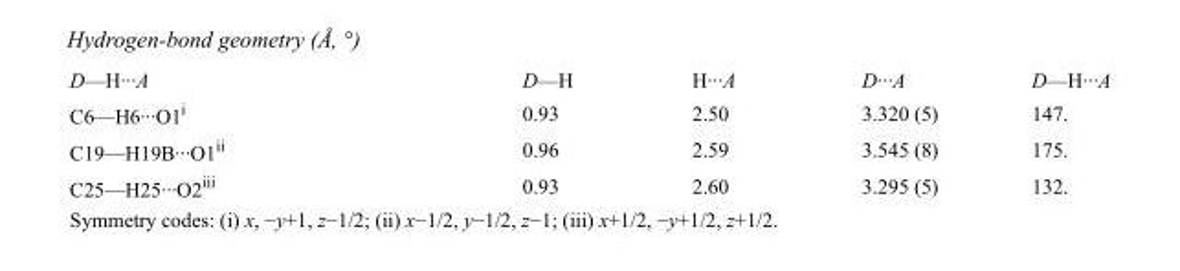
<table><tbody><tr><td>D—H···A</td><td>D—H</td><td>H···A</td><td>D···A</td><td>D—H···A</td></tr><tr><td>C6—H6···O1<sup>i</sup></td><td>0.93</td><td>2.50</td><td>3.320 (5)</td><td>147.</td></tr><tr><td>C19—H19B···O1<sup>ii</sup></td><td>0.96</td><td>2.59</td><td>3.545 (8)</td><td>175.</td></tr><tr><td>C25—H25···O2<sup>iii</sup></td><td>0.93</td><td>2.60</td><td>3.295 (5)</td><td>132.</td></tr></tbody></table>